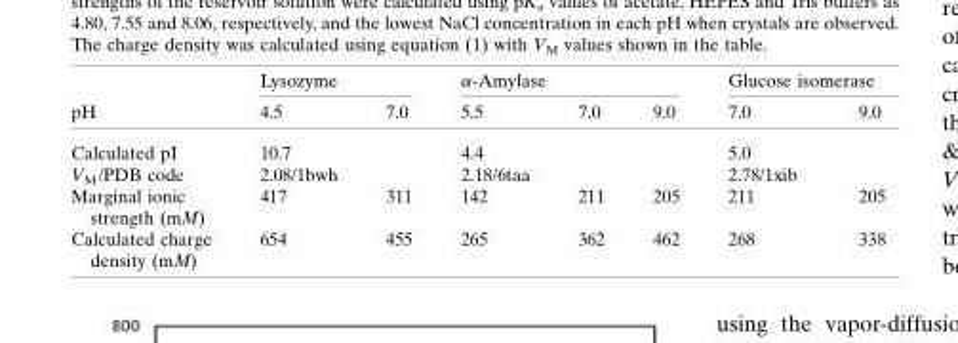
<table><thead><tr><td rowspan="2">pH</td><td colspan="2">Lysozyme</td><td colspan="3">�-Amylase</td><td colspan="2">Glucose isomerase</td></tr><tr><td>4.5</td><td>7.0</td><td>5.5</td><td>7.0</td><td>9.0</td><td>7.0</td><td>9.0</td></tr></thead><tbody><tr><td>Calculated pI</td><td colspan="2">10.7</td><td colspan="3">4.4</td><td colspan="2">5.0</td></tr><tr><td>V<sub>M</sub>/PDB code</td><td>2.08/1bwh</td><td></td><td>2.18/6taa</td><td></td><td></td><td>2.78/1xib</td><td></td></tr><tr><td>Marginal ionic strength (mM)</td><td>417</td><td>311</td><td>142</td><td>211</td><td>205</td><td>211</td><td>205</td></tr><tr><td>Calculated charge density (mM)</td><td>654</td><td>455</td><td>265</td><td>362</td><td>462</td><td>268</td><td>338</td></tr></tbody></table>